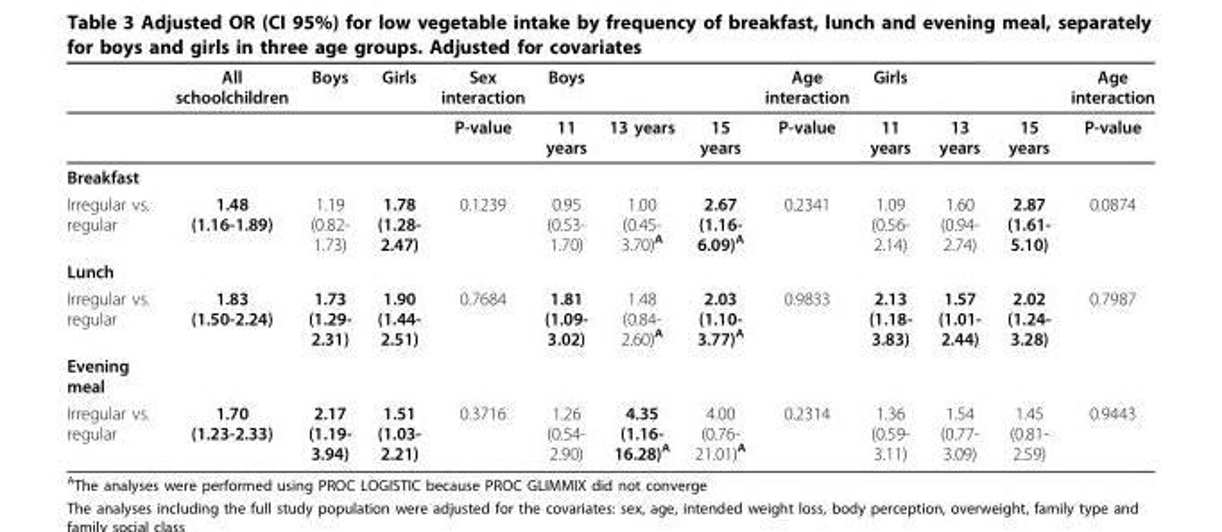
<table><thead><tr><td></td><td>All schoolchildren</td><td>Boys</td><td>Girls</td><td>Sex interaction</td><td>Boys</td><td></td><td></td><td>Age interaction</td><td>Girls</td><td></td><td></td><td>Age interaction</td></tr></thead><tbody><tr><td></td><td></td><td></td><td></td><td>P-value</td><td>11 years</td><td>13 years</td><td>15 years</td><td>P-value</td><td>11 years</td><td>13 years</td><td>15 years</td><td>P-value</td></tr><tr><td colspan="13">Breakfast</td></tr><tr><td>Irregular vs. regular</td><td>1.48 (1.16-1.89)</td><td>1.19 (0.82- 1.73)</td><td>1.78 (1.28- 2.47)</td><td>0.1239</td><td>0.95 (0.53- 1.70)</td><td>1.00 (0.45- 3.70)<sup>A</sup></td><td>2.67 (1.16- 6.09)<sup>A</sup></td><td>0.2341</td><td>1.09 (0.56- 2.14)</td><td>1.60 (0.94- 2.74)</td><td>2.87 (1.61- 5.10)</td><td>0.0874</td></tr><tr><td colspan="13">Lunch</td></tr><tr><td>Irregular vs. regular</td><td>1.83 (1.50-2.24)</td><td>1.73 (1.29- 2.31)</td><td>1.90 (1.44- 2.51)</td><td>0.7684</td><td>1.81 (1.09- 3.02)</td><td>1.48 (0.84- 2.60)<sup>A</sup></td><td>2.03 (1.10- 3.77)<sup>A</sup></td><td>0.9833</td><td>2.13 (1.18- 3.83)</td><td>1.57 (1.01- 2.44)</td><td>2.02 (1.24- 3.28)</td><td>0.7987</td></tr><tr><td colspan="13">Evening meal</td></tr><tr><td>Irregular vs. regular</td><td>1.70 (1.23-2.33)</td><td>2.17 (1.19- 3.94)</td><td>1.51 (1.03- 2.21)</td><td>0.3716</td><td>1.26 (0.54- 2.90)</td><td>4.35 (1.16- 16.28)<sup>A</sup></td><td>4.00 (0.76- 21.01)<sup>A</sup></td><td>0.2314</td><td>1.36 (0.59- 3.11)</td><td>1.54 (0.77- 3.09)</td><td>1.45 (0.81- 2.59)</td><td>0.9443</td></tr></tbody></table>